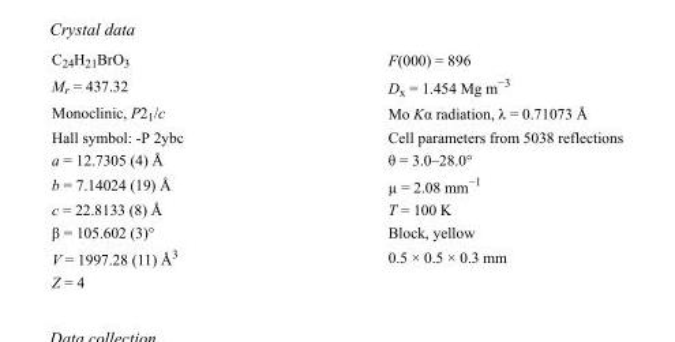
<table><tbody><tr><td>C<sub>24</sub>H<sub>21</sub>BrO<sub>3</sub></td><td>F(000) = 896</td></tr><tr><td>M<sub>r</sub> = 437.32</td><td>D<sub>x</sub> = 1.454 Mg m<sup>−3</sup></td></tr><tr><td>Monoclinic, P2<sub>1</sub>/c</td><td>Mo Kα radiation, λ = 0.71073 Å</td></tr><tr><td>Hall symbol: -P 2ybc</td><td>Cell parameters from 5038 reflections</td></tr><tr><td>a = 12.7305 (4) Å</td><td>θ = 3.0–28.0°</td></tr><tr><td>b = 7.14024 (19) Å</td><td>µ = 2.08 mm<sup>−1</sup></td></tr><tr><td>c = 22.8133 (8) Å</td><td>T = 100 K</td></tr><tr><td>β = 105.602 (3)°</td><td>Block, yellow</td></tr><tr><td>V = 1997.28 (11) Å<sup>3</sup></td><td>0.5 × 0.5 × 0.3 mm</td></tr><tr><td>Z = 4</td><td></td></tr></tbody></table>